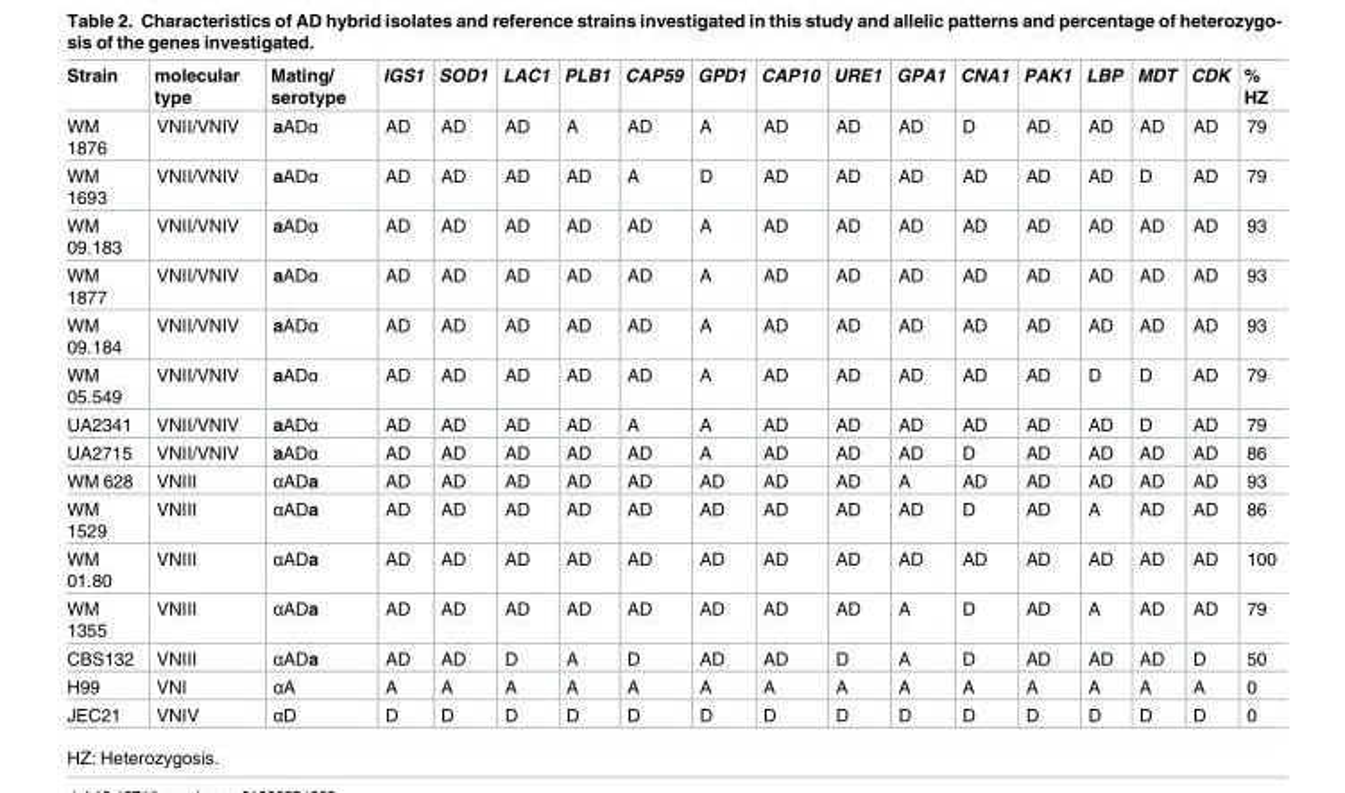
<table><thead><tr><td>Strain</td><td>molecular type</td><td>Mating/ serotype</td><td>IGS1</td><td>SOD1</td><td>LAC1</td><td>PLB1</td><td>CAP59</td><td>GPD1</td><td>CAP10</td><td>URE1</td><td>GPA1</td><td>CNA1</td><td>PAK1</td><td>LBP</td><td>MDT</td><td>CDK</td><td>% HZ</td></tr></thead><tbody><tr><td>WM 1876</td><td>VNII/VNIV</td><td>aADα</td><td>AD</td><td>AD</td><td>AD</td><td>A</td><td>AD</td><td>A</td><td>AD</td><td>AD</td><td>AD</td><td>D</td><td>AD</td><td>AD</td><td>AD</td><td>AD</td><td>79</td></tr><tr><td>WM 1693</td><td>VNII/VNIV</td><td>aADα</td><td>AD</td><td>AD</td><td>AD</td><td>AD</td><td>A</td><td>D</td><td>AD</td><td>AD</td><td>AD</td><td>AD</td><td>AD</td><td>AD</td><td>D</td><td>AD</td><td>79</td></tr><tr><td>WM 09.183</td><td>VNII/VNIV</td><td>aADα</td><td>AD</td><td>AD</td><td>AD</td><td>AD</td><td>AD</td><td>A</td><td>AD</td><td>AD</td><td>AD</td><td>AD</td><td>AD</td><td>AD</td><td>AD</td><td>AD</td><td>93</td></tr><tr><td>WM 1877</td><td>VNII/VNIV</td><td>aADα</td><td>AD</td><td>AD</td><td>AD</td><td>AD</td><td>AD</td><td>A</td><td>AD</td><td>AD</td><td>AD</td><td>AD</td><td>AD</td><td>AD</td><td>AD</td><td>AD</td><td>93</td></tr><tr><td>WM 09.184</td><td>VNII/VNIV</td><td>aADα</td><td>AD</td><td>AD</td><td>AD</td><td>AD</td><td>AD</td><td>A</td><td>AD</td><td>AD</td><td>AD</td><td>AD</td><td>AD</td><td>AD</td><td>AD</td><td>AD</td><td>93</td></tr><tr><td>WM 05.549</td><td>VNII/VNIV</td><td>aADα</td><td>AD</td><td>AD</td><td>AD</td><td>AD</td><td>AD</td><td>A</td><td>AD</td><td>AD</td><td>AD</td><td>AD</td><td>AD</td><td>D</td><td>D</td><td>AD</td><td>79</td></tr><tr><td>UA2341</td><td>VNII/VNIV</td><td>aADα</td><td>AD</td><td>AD</td><td>AD</td><td>AD</td><td>A</td><td>A</td><td>AD</td><td>AD</td><td>AD</td><td>AD</td><td>AD</td><td>AD</td><td>D</td><td>AD</td><td>79</td></tr><tr><td>UA2715</td><td>VNII/VNIV</td><td>aADα</td><td>AD</td><td>AD</td><td>AD</td><td>AD</td><td>AD</td><td>A</td><td>AD</td><td>AD</td><td>AD</td><td>D</td><td>AD</td><td>AD</td><td>AD</td><td>AD</td><td>86</td></tr><tr><td>WM 628</td><td>VNIII</td><td>αADa</td><td>AD</td><td>AD</td><td>AD</td><td>AD</td><td>AD</td><td>AD</td><td>AD</td><td>AD</td><td>A</td><td>AD</td><td>AD</td><td>AD</td><td>AD</td><td>AD</td><td>93</td></tr><tr><td>WM 1529</td><td>VNIII</td><td>αADa</td><td>AD</td><td>AD</td><td>AD</td><td>AD</td><td>AD</td><td>AD</td><td>AD</td><td>AD</td><td>AD</td><td>D</td><td>AD</td><td>A</td><td>AD</td><td>AD</td><td>86</td></tr><tr><td>WM 01.80</td><td>VNIII</td><td>αADa</td><td>AD</td><td>AD</td><td>AD</td><td>AD</td><td>AD</td><td>AD</td><td>AD</td><td>AD</td><td>AD</td><td>AD</td><td>AD</td><td>AD</td><td>AD</td><td>AD</td><td>100</td></tr><tr><td>WM 1355</td><td>VNIII</td><td>αADa</td><td>AD</td><td>AD</td><td>AD</td><td>AD</td><td>AD</td><td>AD</td><td>AD</td><td>AD</td><td>A</td><td>D</td><td>AD</td><td>A</td><td>AD</td><td>AD</td><td>79</td></tr><tr><td>CBS132</td><td>VNIII</td><td>αADa</td><td>AD</td><td>AD</td><td>D</td><td>A</td><td>D</td><td>AD</td><td>AD</td><td>D</td><td>A</td><td>D</td><td>AD</td><td>AD</td><td>AD</td><td>D</td><td>50</td></tr><tr><td>H99</td><td>VNI</td><td>αA</td><td>A</td><td>A</td><td>A</td><td>A</td><td>A</td><td>A</td><td>A</td><td>A</td><td>A</td><td>A</td><td>A</td><td>A</td><td>A</td><td>A</td><td>0</td></tr><tr><td>JEC21</td><td>VNIV</td><td>αD</td><td>D</td><td>D</td><td>D</td><td>D</td><td>D</td><td>D</td><td>D</td><td>D</td><td>D</td><td>D</td><td>D</td><td>D</td><td>D</td><td>D</td><td>0</td></tr></tbody></table>